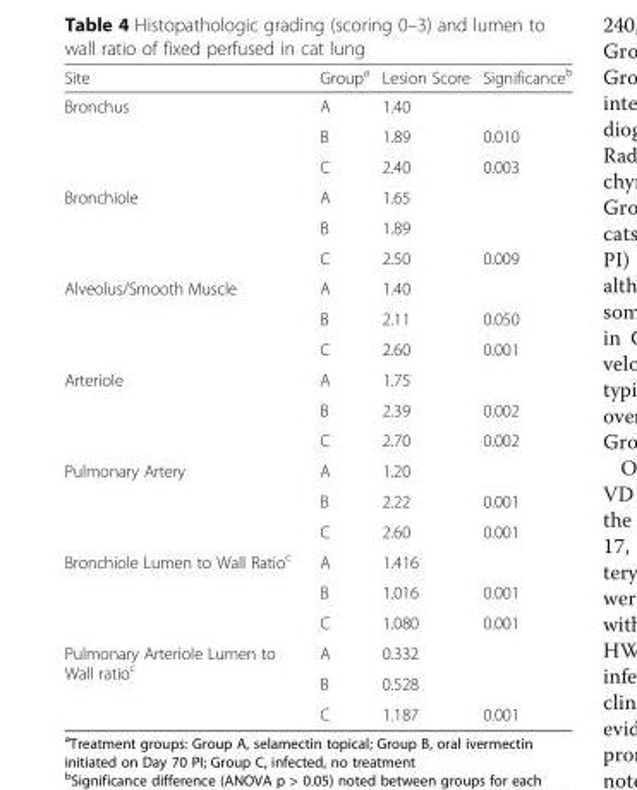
<table><thead><tr><td>Site</td><td>Group<sup>a</sup></td><td>Lesion Score</td><td>Significance<sup>b</sup></td></tr></thead><tbody><tr><td rowspan="3">Bronchus</td><td>A</td><td>1.40</td><td></td></tr><tr><td>B</td><td>1.89</td><td>0.010</td></tr><tr><td>C</td><td>2.40</td><td>0.003</td></tr><tr><td rowspan="3">Bronchiole</td><td>A</td><td>1.65</td><td></td></tr><tr><td>B</td><td>1.89</td><td></td></tr><tr><td>C</td><td>2.50</td><td>0.009</td></tr><tr><td rowspan="3">Alveolus/Smooth Muscle</td><td>A</td><td>1.40</td><td></td></tr><tr><td>B</td><td>2.11</td><td>0.050</td></tr><tr><td>C</td><td>2.60</td><td>0.001</td></tr><tr><td rowspan="3">Arteriole</td><td>A</td><td>1.75</td><td></td></tr><tr><td>B</td><td>2.39</td><td>0.002</td></tr><tr><td>C</td><td>2.70</td><td>0.002</td></tr><tr><td rowspan="3">Pulmonary Artery</td><td>A</td><td>1.20</td><td></td></tr><tr><td>B</td><td>2.22</td><td>0.001</td></tr><tr><td>C</td><td>2.60</td><td>0.001</td></tr><tr><td rowspan="3">Bronchiole Lumen to Wall Ratio<sup>c</sup></td><td>A</td><td>1.416</td><td></td></tr><tr><td>B</td><td>1.016</td><td>0.001</td></tr><tr><td>C</td><td>1.080</td><td>0.001</td></tr><tr><td rowspan="3">Pulmonary Arteriole Lumen to Wall ratio<sup>c</sup></td><td>A</td><td>0.332</td><td></td></tr><tr><td>B</td><td>0.528</td><td></td></tr><tr><td>C</td><td>1.187</td><td>0.001</td></tr></tbody></table>